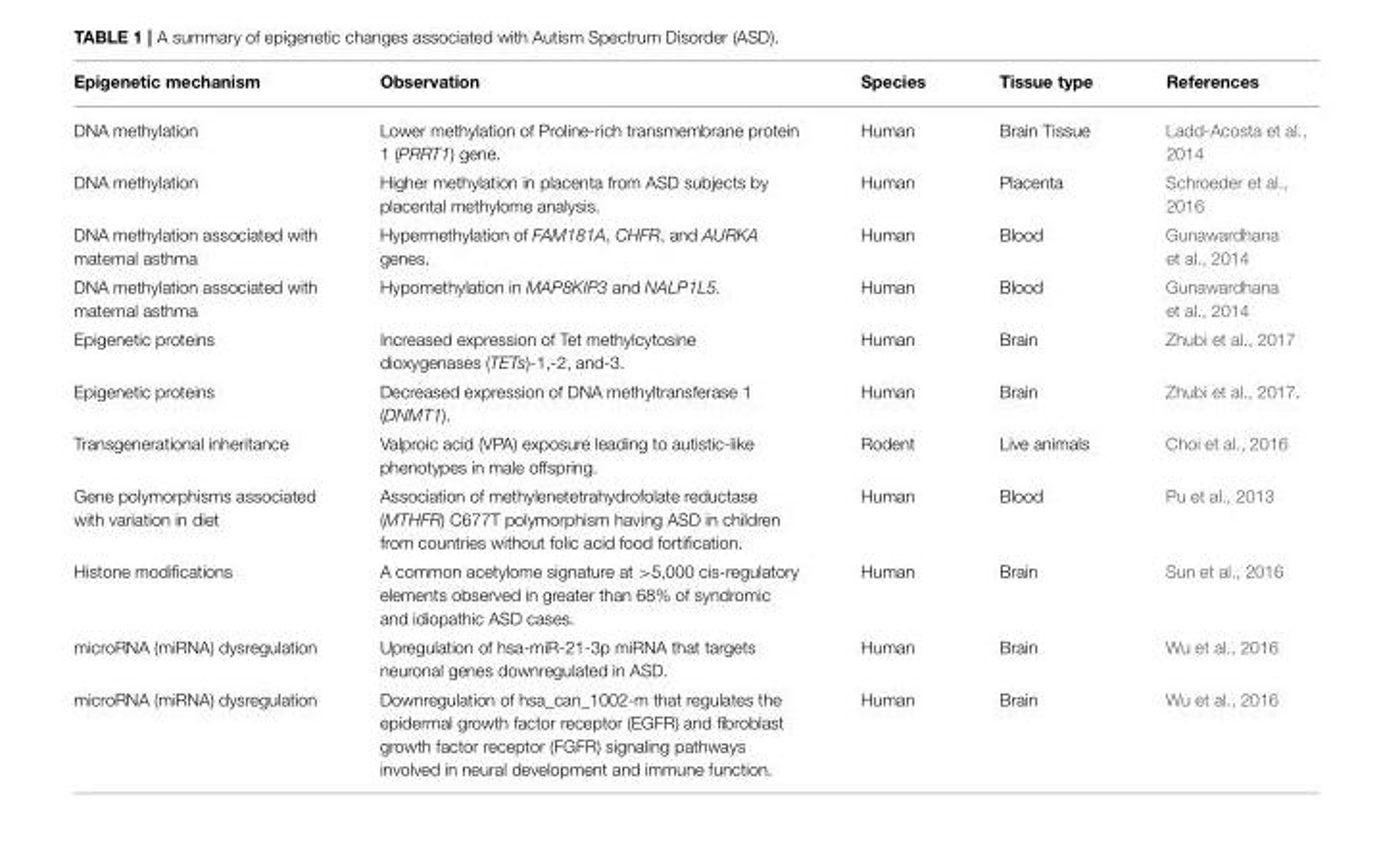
<table><thead><tr><td>Epigenetic mechanism</td><td>Observation</td><td>Species</td><td>Tissue type</td><td>References</td></tr></thead><tbody><tr><td>DNA methylation</td><td>Lower methylation of Proline-rich transmembrane protein 1 (PRRT1) gene.</td><td>Human</td><td>Brain Tissue</td><td>Ladd-Acosta et al., 2014</td></tr><tr><td>DNA methylation</td><td>Higher methylation in placenta from ASD subjects by placental methylome analysis.</td><td>Human</td><td>Placenta</td><td>Schroeder et al., 2016</td></tr><tr><td>DNA methylation associated with maternal asthma</td><td>Hypermethylation of FAM181A, CHFR, and AURKA genes.</td><td>Human</td><td>Blood</td><td>Gunawardhana et al., 2014</td></tr><tr><td>DNA methylation associated with maternal asthma</td><td>Hypomethylation in MAP8KIP3 and NALP1L5.</td><td>Human</td><td>Blood</td><td>Gunawardhana et al., 2014</td></tr><tr><td>Epigenetic proteins</td><td>Increased expression of Tet methylcytosine dioxygenases (TETs)-1,-2, and-3.</td><td>Human</td><td>Brain</td><td>Zhubi et al., 2017</td></tr><tr><td>Epigenetic proteins</td><td>Decreased expression of DNA methyltransferase 1 (DNMT1).</td><td>Human</td><td>Brain</td><td>Zhubi et al., 2017.</td></tr><tr><td>Transgenerational inheritance</td><td>Valproic acid (VPA) exposure leading to autistic-like phenotypes in male offspring.</td><td>Rodent</td><td>Live animals</td><td>Choi et al., 2016</td></tr><tr><td>Gene polymorphisms associated with variation in diet</td><td>Association of methylenetetrahydrofolate reductase (MTHFR) C677T polymorphism having ASD in children from countries without folic acid food fortification.</td><td>Human</td><td>Blood</td><td>Pu et al., 2013</td></tr><tr><td>Histone modifications</td><td>A common acetylome signature at &gt;5,000 cis-regulatory elements observed in greater than 68% of syndromic and idiopathic ASD cases.</td><td>Human</td><td>Brain</td><td>Sun et al., 2016</td></tr><tr><td>microRNA (miRNA) dysregulation</td><td>Upregulation of hsa-miR-21-3p miRNA that targets neuronal genes downregulated in ASD.</td><td>Human</td><td>Brain</td><td>Wu et al., 2016</td></tr><tr><td>microRNA (miRNA) dysregulation</td><td>Downregulation of hsa_can_1002-m that regulates the epidermal growth factor receptor (EGFR) and fibroblast growth factor receptor (FGFR) signaling pathways involved in neural development and immune function.</td><td>Human</td><td>Brain</td><td>Wu et al., 2016</td></tr></tbody></table>